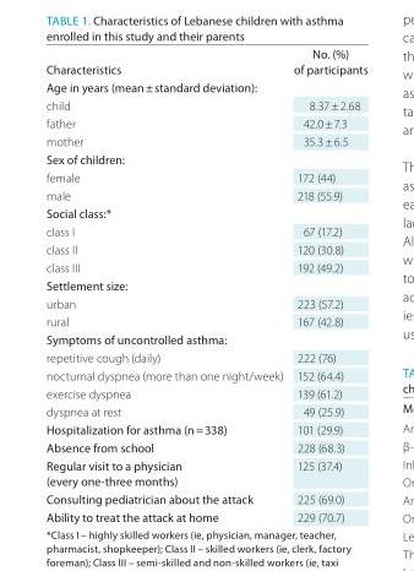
<table><thead><tr><td>characteristics</td><td>no. (%) of participants</td></tr></thead><tbody><tr><td colspan="2">Age in years (mean ± standard deviation):</td></tr><tr><td>child</td><td>8.37 ± 2.68</td></tr><tr><td>father</td><td>42.0 ± 7.3</td></tr><tr><td>mother</td><td>35.3 ± 6.5</td></tr><tr><td colspan="2">Sex of children:</td></tr><tr><td>female</td><td>172 (44)</td></tr><tr><td>male</td><td>218 (55.9)</td></tr><tr><td colspan="2">Social class:*</td></tr><tr><td>class I</td><td>67 (17.2)</td></tr><tr><td>class II</td><td>120 (30.8)</td></tr><tr><td>class III</td><td>192 (49.2)</td></tr><tr><td colspan="2">Settlement size:</td></tr><tr><td>urban</td><td>223 (57.2)</td></tr><tr><td>rural</td><td>167 (42.8)</td></tr><tr><td colspan="2">Symptoms of uncontrolled asthma:</td></tr><tr><td>repetitive cough (daily)</td><td>222 (76)</td></tr><tr><td>nocturnal dyspnea (more than one night/week)</td><td>152 (64.4)</td></tr><tr><td>exercise dyspnea</td><td>139 (61.2)</td></tr><tr><td>dyspnea at rest</td><td>49 (25.9)</td></tr><tr><td>Hospitalization for asthma (n = 338)</td><td>101 (29.9)</td></tr><tr><td>Absence from school</td><td>228 (68.3)</td></tr><tr><td>Regular visit to a physician (every one-three months)</td><td>125 (37.4)</td></tr><tr><td>consulting pediatrician about the attack</td><td>225 (69.0)</td></tr><tr><td>Ability to treat the attack at home</td><td>229 (70.7)</td></tr></tbody></table>